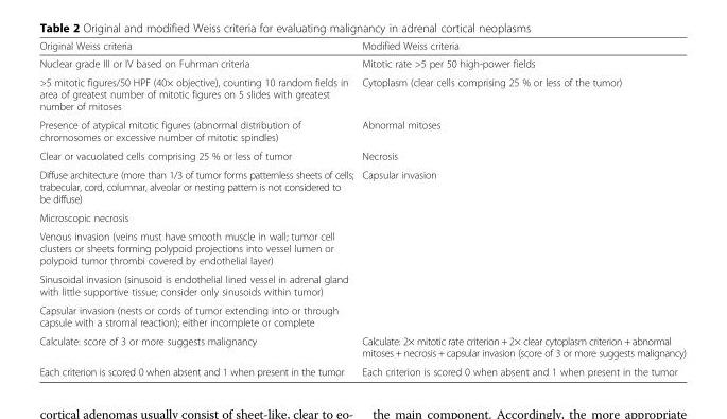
<table><thead><tr><td>Original Weiss criteria</td><td>Modified Weiss criteria</td></tr></thead><tbody><tr><td>Nuclear grade III or IV based on Fuhrman criteria</td><td>Mitotic rate &gt;5 per 50 high-power fields</td></tr><tr><td>&gt;5 mitotic figures/50 HPF (40× objective), counting 10 random fields in area of greatest number of mitotic figures on 5 slides with greatest number of mitoses</td><td>Cytoplasm (clear cells comprising 25 % or less of the tumor)</td></tr><tr><td>Presence of atypical mitotic figures (abnormal distribution of chromosomes or excessive number of mitotic spindles)</td><td>Abnormal mitoses</td></tr><tr><td>Clear or vacuolated cells comprising 25 % or less of tumor</td><td>Necrosis</td></tr><tr><td>Diffuse architecture (more than 1/3 of tumor forms patternless sheets of cells; trabecular, cord, columnar, alveolar or nesting pattern is not considered to be diffuse)</td><td>Capsular invasion</td></tr><tr><td colspan="2">Microscopic necrosis</td></tr><tr><td colspan="2">Venous invasion (veins must have smooth muscle in wall; tumor cell clusters or sheets forming polypoid projections into vessel lumen or polypoid tumor thrombi covered by endothelial layer)</td></tr><tr><td colspan="2">Sinusoidal invasion (sinusoid is endothelial lined vessel in adrenal gland with little supportive tissue; consider only sinusoids within tumor)</td></tr><tr><td colspan="2">Capsular invasion (nests or cords of tumor extending into or through capsule with a stromal reaction); either incomplete or complete</td></tr><tr><td>Calculate: score of 3 or more suggests malignancy</td><td>Calculate: 2× mitotic rate criterion + 2× clear cytoplasm criterion + abnormal mitoses + necrosis + capsular invasion (score of 3 or more suggests malignancy)</td></tr><tr><td>Each criterion is scored 0 when absent and 1 when present in the tumor</td><td>Each criterion is scored 0 when absent and 1 when present in the tumor</td></tr></tbody></table>